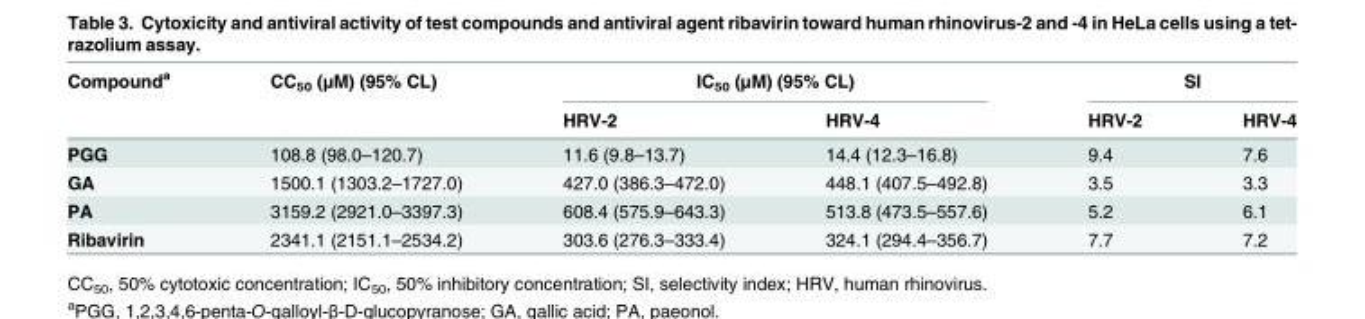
<table><thead><tr><td rowspan="2">Compound<sup>a</sup></td><td rowspan="2">CC<sub>50</sub> (μM) (95% CL)</td><td colspan="2">IC<sub>50</sub> (μM) (95% CL)</td><td colspan="2">SI</td></tr><tr><td>HRV-2</td><td>HRV-4</td><td>HRV-2</td><td>HRV-4</td></tr></thead><tbody><tr><td>PGG</td><td>108.8 (98.0–120.7)</td><td>11.6 (9.8–13.7)</td><td>14.4 (12.3–16.8)</td><td>9.4</td><td>7.6</td></tr><tr><td>GA</td><td>1500.1 (1303.2–1727.0)</td><td>427.0 (386.3–472.0)</td><td>448.1 (407.5–492.8)</td><td>3.5</td><td>3.3</td></tr><tr><td>PA</td><td>3159.2 (2921.0–3397.3)</td><td>608.4 (575.9–643.3)</td><td>513.8 (473.5–557.6)</td><td>5.2</td><td>6.1</td></tr><tr><td>Ribavirin</td><td>2341.1 (2151.1–2534.2)</td><td>303.6 (276.3–333.4)</td><td>324.1 (294.4–356.7)</td><td>7.7</td><td>7.2</td></tr></tbody></table>